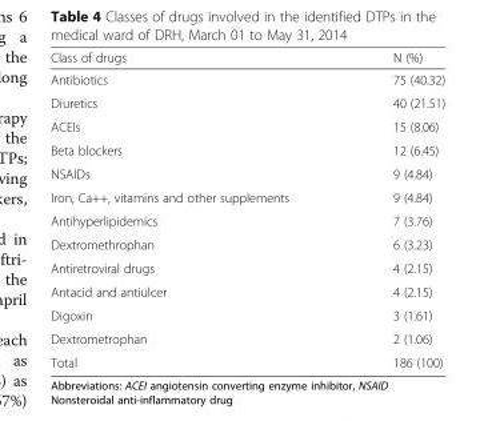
<table><thead><tr><td>Class of drugs</td><td>N (%)</td></tr></thead><tbody><tr><td>Antibiotics</td><td>75 (40.32)</td></tr><tr><td>Diuretics</td><td>40 (21.51)</td></tr><tr><td>ACEIs</td><td>15 (8.06)</td></tr><tr><td>Beta blockers</td><td>12 (6.45)</td></tr><tr><td>NSAIDs</td><td>9 (4.84)</td></tr><tr><td>Iron, Ca++, vitamins and other supplements</td><td>9 (4.84)</td></tr><tr><td>Antihyperlipidemics</td><td>7 (3.76)</td></tr><tr><td>Dextromethrophan</td><td>6 (3.23)</td></tr><tr><td>Antiretroviral drugs</td><td>4 (2.15)</td></tr><tr><td>Antacid and antiulcer</td><td>4 (2.15)</td></tr><tr><td>Digoxin</td><td>3 (1.61)</td></tr><tr><td>Dextrometrophan</td><td>2 (1.06)</td></tr><tr><td>Total</td><td>186 (100)</td></tr></tbody></table>